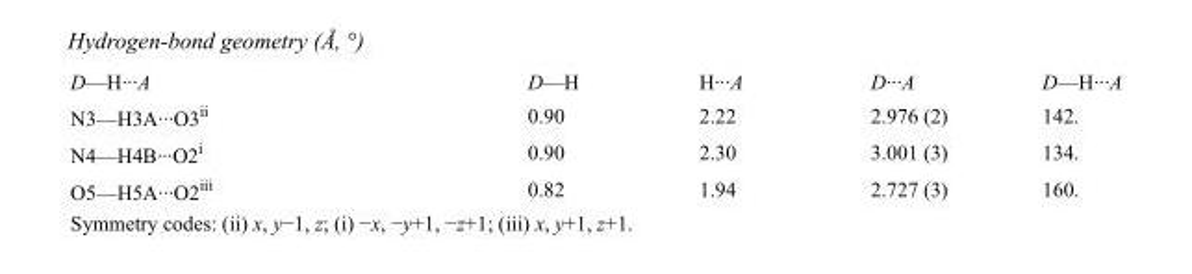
<table><tbody><tr><td>D—H···A</td><td>D—H</td><td>H···A</td><td>D···A</td><td>D—H···A</td></tr><tr><td>N3—H3A···O3<sup>ii</sup></td><td>0.90</td><td>2.22</td><td>2.976 (2)</td><td>142.</td></tr><tr><td>N4—H4B···O2<sup>i</sup></td><td>0.90</td><td>2.30</td><td>3.001 (3)</td><td>134.</td></tr><tr><td>O5—H5A···O2<sup>iii</sup></td><td>0.82</td><td>1.94</td><td>2.727 (3)</td><td>160.</td></tr></tbody></table>